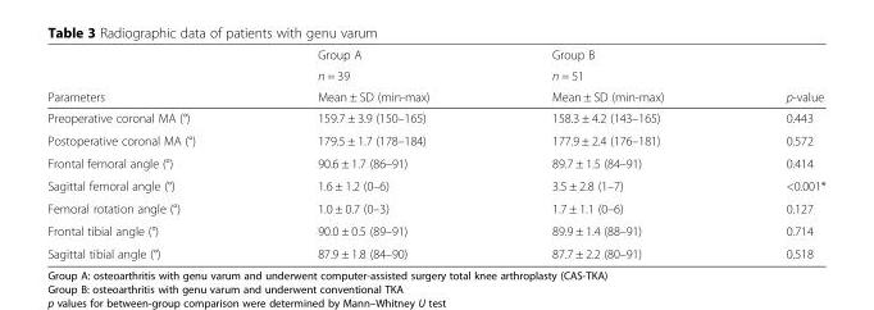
<table><thead><tr><td rowspan="3">Parameters</td><td rowspan="3">Group A n = 39 Mean ± SD (min-max)</td><td rowspan="3">Group B n = 51 Mean ± SD (min-max)</td><td rowspan="3">p-value</td></tr><tr></tr><tr></tr></thead><tbody><tr><td>Preoperative coronal MA (°)</td><td>159.7 ± 3.9 (150–165)</td><td>158.3 ± 4.2 (143–165)</td><td>0.443</td></tr><tr><td>Postoperative coronal MA (°)</td><td>179.5 ± 1.7 (178–184)</td><td>177.9 ± 2.4 (176–181)</td><td>0.572</td></tr><tr><td>Frontal femoral angle (°)</td><td>90.6 ± 1.7 (86–91)</td><td>89.7 ± 1.5 (84–91)</td><td>0.414</td></tr><tr><td>Sagittal femoral angle (°)</td><td>1.6 ± 1.2 (0–6)</td><td>3.5 ± 2.8 (1–7)</td><td>&lt;0.001*</td></tr><tr><td>Femoral rotation angle (°)</td><td>1.0 ± 0.7 (0–3)</td><td>1.7 ± 1.1 (0–6)</td><td>0.127</td></tr><tr><td>Frontal tibial angle (°)</td><td>90.0 ± 0.5 (89–91)</td><td>89.9 ± 1.4 (88–91)</td><td>0.714</td></tr><tr><td>Sagittal tibial angle (°)</td><td>87.9 ± 1.8 (84–90)</td><td>87.7 ± 2.2 (80–91)</td><td>0.518</td></tr></tbody></table>